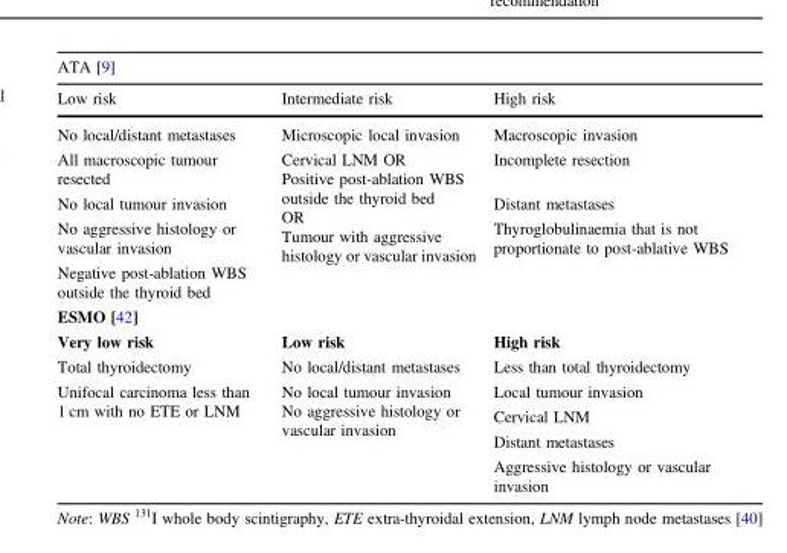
<table><thead><tr><td colspan="3">ATA [9]</td></tr><tr><td>Low risk</td><td>Intermediate risk</td><td>High risk</td></tr></thead><tbody><tr><td>No local/distant metastases</td><td>Microscopic local invasion</td><td>Macroscopic invasion</td></tr><tr><td>All macroscopic tumour resected</td><td rowspan="4">Cervical LNM OR Positive post-ablation WBS outside the thyroid bed OR Tumour with aggressive histology or vascular invasion</td><td>Incomplete resection</td></tr><tr><td>No local tumour invasion</td><td>Distant metastases</td></tr><tr><td>No aggressive histology or vascular invasion</td><td rowspan="2">Thyroglobulinaemia that is not proportionate to post-ablative WBS</td></tr><tr><td>Negative post-ablation WBS outside the thyroid bed</td></tr><tr><td colspan="3">ESMO [42]</td></tr><tr><td>Very low risk</td><td>Low risk</td><td>High risk</td></tr><tr><td>Total thyroidectomy</td><td>No local/distant metastases</td><td>Less than total thyroidectomy</td></tr><tr><td rowspan="4">Unifocal carcinoma less than 1 cm with no ETE or LNM</td><td rowspan="4">No local tumour invasion No aggressive histology or vascular invasion</td><td>Local tumour invasion</td></tr><tr><td>Cervical LNM</td></tr><tr><td>Distant metastases</td></tr><tr><td>Aggressive histology or vascular invasion</td></tr></tbody></table>